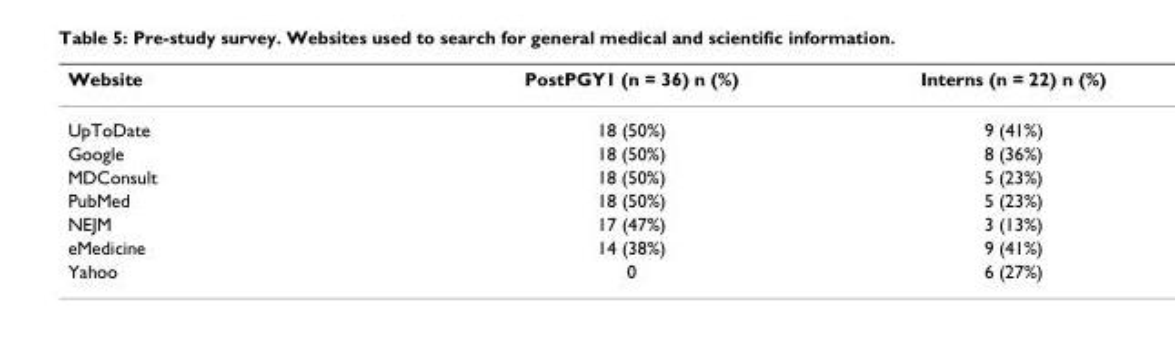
<table><thead><tr><td>Website</td><td>PostPGY1 (n = 36) n (%)</td><td>Interns (n = 22) n (%)</td></tr></thead><tbody><tr><td>UpToDate</td><td>18 (50%)</td><td>9 (41%)</td></tr><tr><td>Google</td><td>18 (50%)</td><td>8 (36%)</td></tr><tr><td>MDConsult</td><td>18 (50%)</td><td>5 (23%)</td></tr><tr><td>PubMed</td><td>18 (50%)</td><td>5 (23%)</td></tr><tr><td>NEJM</td><td>17 (47%)</td><td>3 (13%)</td></tr><tr><td>eMedicine</td><td>14 (38%)</td><td>9 (41%)</td></tr><tr><td>Yahoo</td><td>0</td><td>6 (27%)</td></tr></tbody></table>